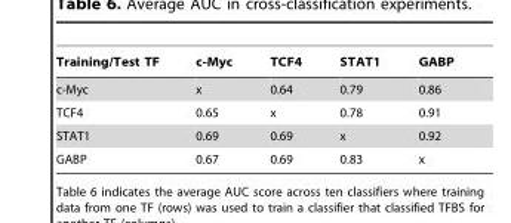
<table><thead><tr><td>Training/Test TF</td><td>c-Myc</td><td>TCF4</td><td>STAT1</td><td>GABP</td></tr></thead><tbody><tr><td>c-Myc</td><td>x</td><td>0.64</td><td>0.79</td><td>0.86</td></tr><tr><td>TCF4</td><td>0.65</td><td>x</td><td>0.78</td><td>0.91</td></tr><tr><td>STAT1</td><td>0.69</td><td>0.69</td><td>x</td><td>0.92</td></tr><tr><td>GABP</td><td>0.67</td><td>0.69</td><td>0.83</td><td>x</td></tr></tbody></table>